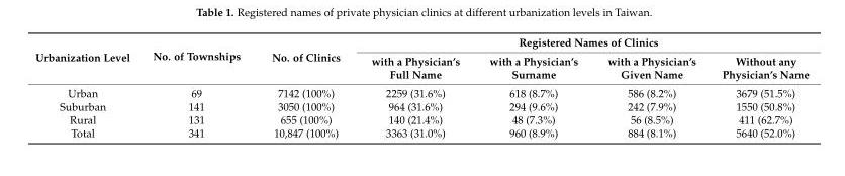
<table><thead><tr><td rowspan="2">Urbanization Level</td><td rowspan="2">No. of Townships</td><td rowspan="2">No. of Clinics</td><td colspan="4">Registered Names of Clinics</td></tr><tr><td>with a Physician’s Full Name</td><td>with a Physician’s Surname</td><td>with a Physician’s Given Name</td><td>Without any Physician’s Name</td></tr></thead><tbody><tr><td>Urban</td><td>69</td><td>7142 (100%)</td><td>2259 (31.6%)</td><td>618 (8.7%)</td><td>586 (8.2%)</td><td>3679 (51.5%)</td></tr><tr><td>Suburban</td><td>141</td><td>3050 (100%)</td><td>964 (31.6%)</td><td>294 (9.6%)</td><td>242 (7.9%)</td><td>1550 (50.8%)</td></tr><tr><td>Rural</td><td>131</td><td>655 (100%)</td><td>140 (21.4%)</td><td>48 (7.3%)</td><td>56 (8.5%)</td><td>411 (62.7%)</td></tr><tr><td>Total</td><td>341</td><td>10,847 (100%)</td><td>3363 (31.0%)</td><td>960 (8.9%)</td><td>884 (8.1%)</td><td>5640 (52.0%)</td></tr></tbody></table>